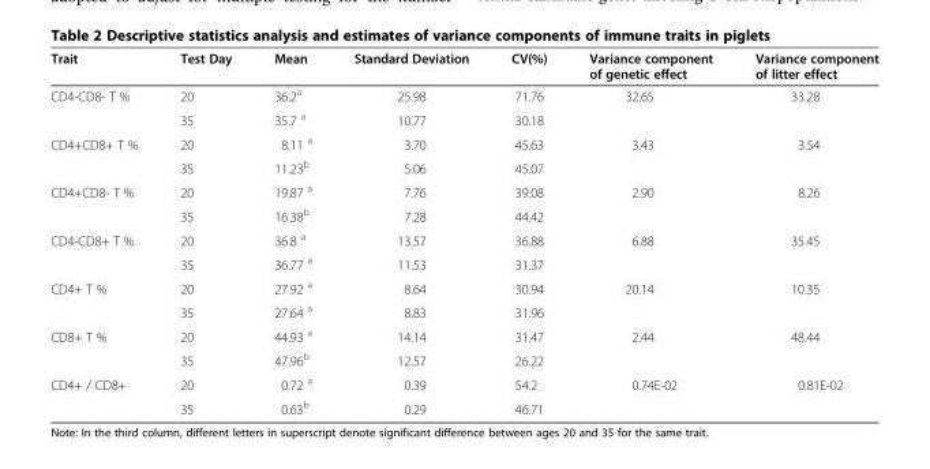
<table><thead><tr><td>Trait</td><td>Test Day</td><td>Mean</td><td>Standard Deviation</td><td>CV(%)</td><td>Variance component of genetic effect</td><td>Variance component of litter effect</td></tr></thead><tbody><tr><td rowspan="2">CD4-CD8- T %</td><td>20</td><td>36.2<sup>a</sup></td><td>25.98</td><td>71.76</td><td>32.65</td><td>33.28</td></tr><tr><td>35</td><td>35.7 <sup>a</sup></td><td>10.77</td><td>30.18</td><td></td><td></td></tr><tr><td rowspan="2">CD4+CD8+ T %</td><td>20</td><td>8.11 <sup>a</sup></td><td>3.70</td><td>45.63</td><td>3.43</td><td>3.54</td></tr><tr><td>35</td><td>11.23<sup>b</sup></td><td>5.06</td><td>45.07</td><td></td><td></td></tr><tr><td rowspan="2">CD4+CD8- T %</td><td>20</td><td>19.87 <sup>a</sup></td><td>7.76</td><td>39.08</td><td>2.90</td><td>8.26</td></tr><tr><td>35</td><td>16.38<sup>b</sup></td><td>7.28</td><td>44.42</td><td></td><td></td></tr><tr><td rowspan="2">CD4-CD8+ T %</td><td>20</td><td>36.8 <sup>a</sup></td><td>13.57</td><td>36.88</td><td>6.88</td><td>35.45</td></tr><tr><td>35</td><td>36.77 <sup>a</sup></td><td>11.53</td><td>31.37</td><td></td><td></td></tr><tr><td rowspan="2">CD4+ T %</td><td>20</td><td>27.92 <sup>a</sup></td><td>8.64</td><td>30.94</td><td>20.14</td><td>10.35</td></tr><tr><td>35</td><td>27.64 <sup>a</sup></td><td>8.83</td><td>31.96</td><td></td><td></td></tr><tr><td rowspan="2">CD8+ T %</td><td>20</td><td>44.93 <sup>a</sup></td><td>14.14</td><td>31.47</td><td>2.44</td><td>48.44</td></tr><tr><td>35</td><td>47.96<sup>b</sup></td><td>12.57</td><td>26.22</td><td></td><td></td></tr><tr><td rowspan="2">CD4+ / CD8+</td><td>20</td><td>0.72 <sup>a</sup></td><td>0.39</td><td>54.2</td><td>0.74E-02</td><td>0.81E-02</td></tr><tr><td>35</td><td>0.63<sup>b</sup></td><td>0.29</td><td>46.71</td><td></td><td></td></tr></tbody></table>